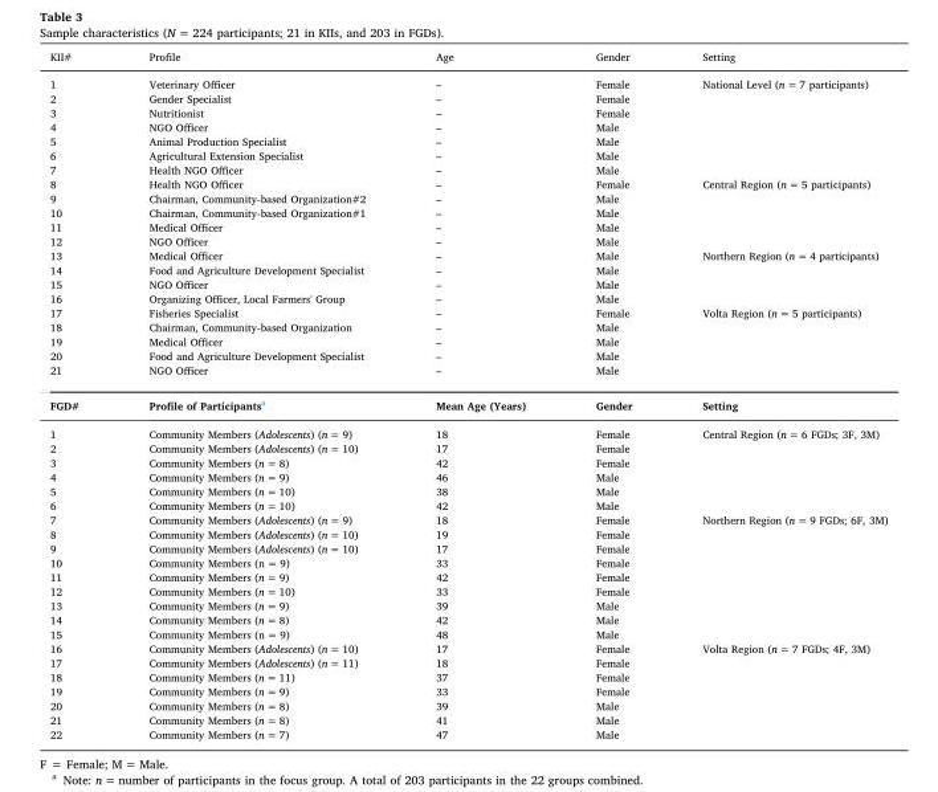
<table><thead><tr><td>KII#</td><td>Profile</td><td>Age</td><td>Gender</td><td>Setting</td></tr></thead><tbody><tr><td>1</td><td>Veterinary Officer</td><td>–</td><td>Female</td><td rowspan="7">National Level (n = 7 participants)</td></tr><tr><td>2</td><td>Gender Specialist</td><td>–</td><td>Female</td></tr><tr><td>3</td><td>Nutritionist</td><td>–</td><td>Female</td></tr><tr><td>4</td><td>NGO Officer</td><td>–</td><td>Male</td></tr><tr><td>5</td><td>Animal Production Specialist</td><td>–</td><td>Male</td></tr><tr><td>6</td><td>Agricultural Extension Specialist</td><td>–</td><td>Male</td></tr><tr><td>7</td><td>Health NGO Officer</td><td>–</td><td>Male</td></tr><tr><td>8</td><td>Health NGO Officer</td><td>–</td><td>Female</td><td rowspan="5">Central Region (n = 5 participants)</td></tr><tr><td>9</td><td>Chairman, Community-based Organization#2</td><td>–</td><td>Male</td></tr><tr><td>10</td><td>Chairman, Community-based Organization#1</td><td>–</td><td>Male</td></tr><tr><td>11</td><td>Medical Officer</td><td>–</td><td>Male</td></tr><tr><td>12</td><td>NGO Officer</td><td>–</td><td>Male</td></tr><tr><td>13</td><td>Medical Officer</td><td>–</td><td>Male</td><td rowspan="4">Northern Region (n = 4 participants)</td></tr><tr><td>14</td><td>Food and Agriculture Development Specialist</td><td>–</td><td>Male</td></tr><tr><td>15</td><td>NGO Officer</td><td>–</td><td>Male</td></tr><tr><td>16</td><td>Organizing Officer, Local Farmers&#x27; Group</td><td>–</td><td>Male</td></tr><tr><td>17</td><td>Fisheries Specialist</td><td>–</td><td>Female</td><td rowspan="5">Volta Region (n = 5 participants)</td></tr><tr><td>18</td><td>Chairman, Community-based Organization</td><td>–</td><td>Male</td></tr><tr><td>19</td><td>Medical Officer</td><td>–</td><td>Male</td></tr><tr><td>20</td><td>Food and Agriculture Development Specialist</td><td>–</td><td>Male</td></tr><tr><td>21</td><td>NGO Officer</td><td>–</td><td>Male</td></tr><tr><td>FGD#</td><td>Profile of Participants<sup>a</sup></td><td>Mean Age (Years)</td><td>Gender</td><td>Setting</td></tr><tr><td>1</td><td>Community Members (Adolescents) (n = 9)</td><td>18</td><td>Female</td><td rowspan="6">Central Region (n = 6 FGDs; 3F, 3M)</td></tr><tr><td>2</td><td>Community Members (Adolescents) (n = 10)</td><td>17</td><td>Female</td></tr><tr><td>3</td><td>Community Members (n = 8)</td><td>42</td><td>Female</td></tr><tr><td>4</td><td>Community Members (n = 9)</td><td>46</td><td>Male</td></tr><tr><td>5</td><td>Community Members (n = 10)</td><td>38</td><td>Male</td></tr><tr><td>6</td><td>Community Members (n = 10)</td><td>42</td><td>Male</td></tr><tr><td>7</td><td>Community Members (Adolescents) (n = 9)</td><td>18</td><td>Female</td><td rowspan="9">Northern Region (n = 9 FGDs; 6F, 3M)</td></tr><tr><td>8</td><td>Community Members (Adolescents) (n = 10)</td><td>19</td><td>Female</td></tr><tr><td>9</td><td>Community Members (Adolescents) (n = 10)</td><td>17</td><td>Female</td></tr><tr><td>10</td><td>Community Members (n = 9)</td><td>33</td><td>Female</td></tr><tr><td>11</td><td>Community Members (n = 9)</td><td>42</td><td>Female</td></tr><tr><td>12</td><td>Community Members (n = 10)</td><td>33</td><td>Female</td></tr><tr><td>13</td><td>Community Members (n = 9)</td><td>39</td><td>Male</td></tr><tr><td>14</td><td>Community Members (n = 8)</td><td>42</td><td>Male</td></tr><tr><td>15</td><td>Community Members (n = 9)</td><td>48</td><td>Male</td></tr><tr><td>16</td><td>Community Members (Adolescents) (n = 10)</td><td>17</td><td>Female</td><td rowspan="7">Volta Region (n = 7 FGDs; 4F, 3M)</td></tr><tr><td>17</td><td>Community Members (Adolescents) (n = 11)</td><td>18</td><td>Female</td></tr><tr><td>18</td><td>Community Members (n = 11)</td><td>37</td><td>Female</td></tr><tr><td>19</td><td>Community Members (n = 9)</td><td>33</td><td>Female</td></tr><tr><td>20</td><td>Community Members (n = 8)</td><td>39</td><td>Male</td></tr><tr><td>21</td><td>Community Members (n = 8)</td><td>41</td><td>Male</td></tr><tr><td>22</td><td>Community Members (n = 7)</td><td>47</td><td>Male</td></tr></tbody></table>